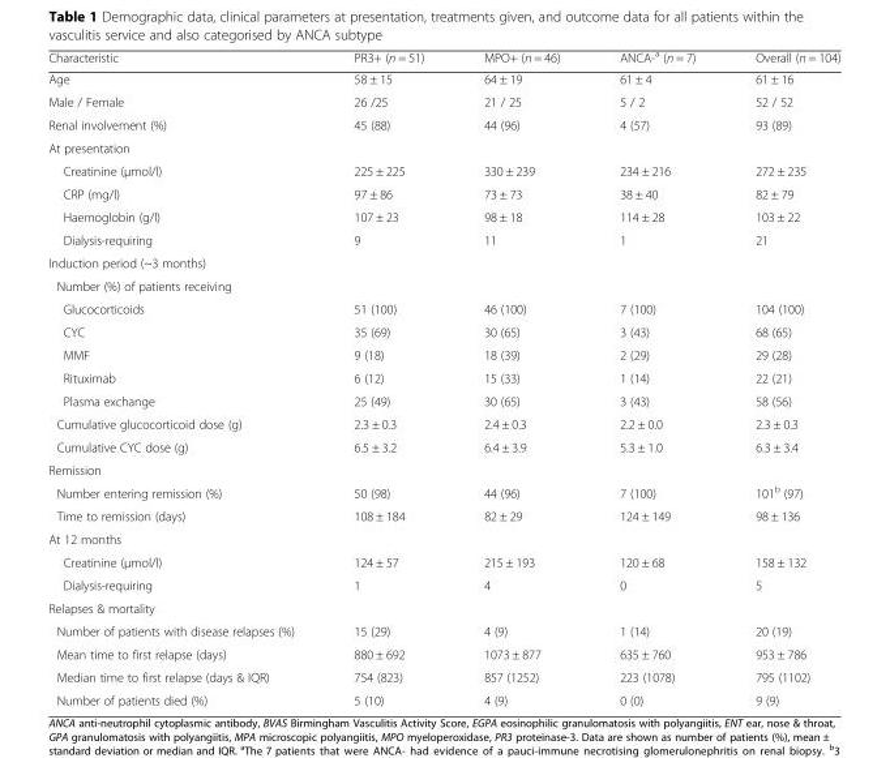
<table><thead><tr><td>Characteristic</td><td>PR3+ (n = 51)</td><td>MPO+ (n = 46)</td><td>ANCA-<sup>a</sup> (n = 7)</td><td>Overall (n = 104)</td></tr></thead><tbody><tr><td>Age</td><td>58 ± 15</td><td>64 ± 19</td><td>61 ± 4</td><td>61 ± 16</td></tr><tr><td>Male / Female</td><td>26 /25</td><td>21 / 25</td><td>5 / 2</td><td>52 / 52</td></tr><tr><td>Renal involvement (%)</td><td>45 (88)</td><td>44 (96)</td><td>4 (57)</td><td>93 (89)</td></tr><tr><td colspan="5">At presentation</td></tr><tr><td>Creatinine (μmol/l)</td><td>225 ± 225</td><td>330 ± 239</td><td>234 ± 216</td><td>272 ± 235</td></tr><tr><td>CRP (mg/l)</td><td>97 ± 86</td><td>73 ± 73</td><td>38 ± 40</td><td>82 ± 79</td></tr><tr><td>Haemoglobin (g/l)</td><td>107 ± 23</td><td>98 ± 18</td><td>114 ± 28</td><td>103 ± 22</td></tr><tr><td>Dialysis-requiring</td><td>9</td><td>11</td><td>1</td><td>21</td></tr><tr><td colspan="5">Induction period (~3 months)</td></tr><tr><td colspan="5">Number (%) of patients receiving</td></tr><tr><td>Glucocorticoids</td><td>51 (100)</td><td>46 (100)</td><td>7 (100)</td><td>104 (100)</td></tr><tr><td>CYC</td><td>35 (69)</td><td>30 (65)</td><td>3 (43)</td><td>68 (65)</td></tr><tr><td>MMF</td><td>9 (18)</td><td>18 (39)</td><td>2 (29)</td><td>29 (28)</td></tr><tr><td>Rituximab</td><td>6 (12)</td><td>15 (33)</td><td>1 (14)</td><td>22 (21)</td></tr><tr><td>Plasma exchange</td><td>25 (49)</td><td>30 (65)</td><td>3 (43)</td><td>58 (56)</td></tr><tr><td>Cumulative glucocorticoid dose (g)</td><td>2.3 ± 0.3</td><td>2.4 ± 0.3</td><td>2.2 ± 0.0</td><td>2.3 ± 0.3</td></tr><tr><td>Cumulative CYC dose (g)</td><td>6.5 ± 3.2</td><td>6.4 ± 3.9</td><td>5.3 ± 1.0</td><td>6.3 ± 3.4</td></tr><tr><td colspan="5">Remission</td></tr><tr><td>Number entering remission (%)</td><td>50 (98)</td><td>44 (96)</td><td>7 (100)</td><td>101<sup>b</sup> (97)</td></tr><tr><td>Time to remission (days)</td><td>108 ± 184</td><td>82 ± 29</td><td>124 ± 149</td><td>98 ± 136</td></tr><tr><td colspan="5">At 12 months</td></tr><tr><td>Creatinine (μmol/l)</td><td>124 ± 57</td><td>215 ± 193</td><td>120 ± 68</td><td>158 ± 132</td></tr><tr><td>Dialysis-requiring</td><td>1</td><td>4</td><td>0</td><td>5</td></tr><tr><td colspan="5">Relapses &amp; mortality</td></tr><tr><td>Number of patients with disease relapses (%)</td><td>15 (29)</td><td>4 (9)</td><td>1 (14)</td><td>20 (19)</td></tr><tr><td>Mean time to first relapse (days)</td><td>880 ± 692</td><td>1073 ± 877</td><td>635 ± 760</td><td>953 ± 786</td></tr><tr><td>Median time to first relapse (days &amp; IQR)</td><td>754 (823)</td><td>857 (1252)</td><td>223 (1078)</td><td>795 (1102)</td></tr><tr><td>Number of patients died (%)</td><td>5 (10)</td><td>4 (9)</td><td>0 (0)</td><td>9 (9)</td></tr></tbody></table>